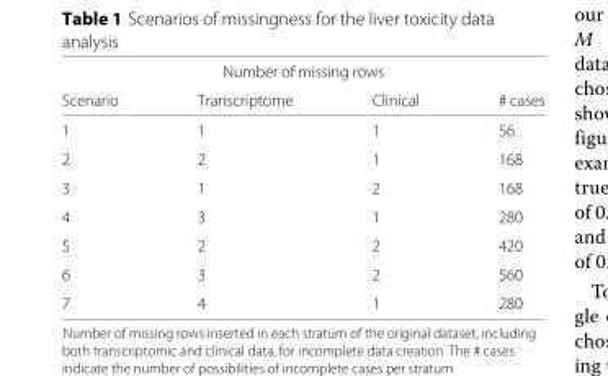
<table><thead><tr><td colspan="4">Number of missing rows</td></tr><tr><td>Scenario</td><td>Transcriptome</td><td>Clinical</td><td># cases</td></tr></thead><tbody><tr><td>1</td><td>1</td><td>1</td><td>56</td></tr><tr><td>2</td><td>2</td><td>1</td><td>168</td></tr><tr><td>3</td><td>1</td><td>2</td><td>168</td></tr><tr><td>4</td><td>3</td><td>1</td><td>280</td></tr><tr><td>5</td><td>2</td><td>2</td><td>420</td></tr><tr><td>6</td><td>3</td><td>2</td><td>560</td></tr><tr><td>7</td><td>4</td><td>1</td><td>280</td></tr></tbody></table>